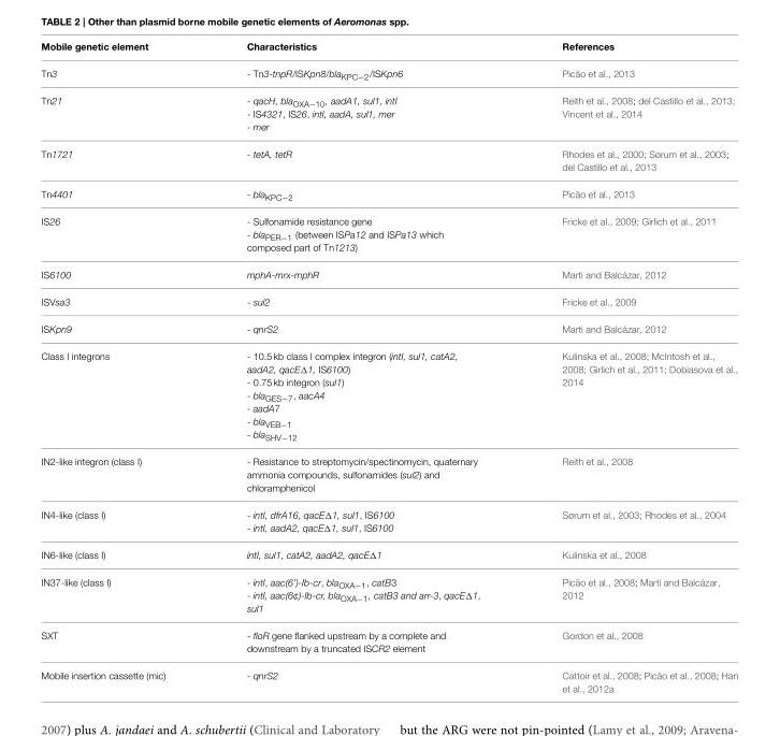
<table><thead><tr><td>Mobile genetic element</td><td>Characteristics</td><td>References</td></tr></thead><tbody><tr><td>Tn3</td><td>- Tn3-tnpR/ISKpn8/bla<sub>KPC−2</sub>/ISKpn6</td><td>Picão et al., 2013</td></tr><tr><td>Tn21</td><td>- qacH, bla<sub>OXA−10</sub>, aadA1, sul1, intI - IS4321, IS26, intI, aadA, sul1, mer - mer</td><td>Reith et al., 2008; del Castillo et al., 2013; Vincent et al., 2014</td></tr><tr><td>Tn1721</td><td>- tetA, tetR</td><td>Rhodes et al., 2000; Sørum et al., 2003; del Castillo et al., 2013</td></tr><tr><td>Tn4401</td><td>- bla<sub>KPC−2</sub></td><td>Picão et al., 2013</td></tr><tr><td>IS26</td><td>- Sulfonamide resistance gene - bla<sub>PER−1</sub> (between ISPa12 and ISPa13 which composed part of Tn1213)</td><td>Fricke et al., 2009; Girlich et al., 2011</td></tr><tr><td>IS6100</td><td>mphA-mrx-mphR</td><td>Marti and Balcázar, 2012</td></tr><tr><td>ISVsa3</td><td>- sul2</td><td>Fricke et al., 2009</td></tr><tr><td>ISKpn9</td><td>- qnrS2</td><td>Marti and Balcázar, 2012</td></tr><tr><td>Class I integrons</td><td>- 10.5 kb class I complex integron (intI, sul1, catA2, aadA2, qacEΔ1, IS6100) - 0.75 kb integron (sul1) - bla<sub>GES−7</sub>, aacA4 - aadA7 - bla<sub>VEB−1</sub> - bla<sub>SHV−12</sub></td><td>Kulinska et al., 2008; McIntosh et al., 2008; Girlich et al., 2011; Dobiasova et al., 2014</td></tr><tr><td>IN2-like integron (class I)</td><td>- Resistance to streptomycin/spectinomycin, quaternary ammonia compounds, sulfonamides (sul2) and chloramphenicol</td><td>Reith et al., 2008</td></tr><tr><td>IN4-like (class I)</td><td>- intI, dfrA16, qacEΔ1, sul1, IS6100 - intI, aadA2, qacEΔ1, sul1, IS6100</td><td>Sørum et al., 2003; Rhodes et al., 2004</td></tr><tr><td>IN6-like (class I)</td><td>intI, sul1, catA2, aadA2, qacEΔ1</td><td>Kulinska et al., 2008</td></tr><tr><td>IN37-like (class I)</td><td>- intI, aac(6’)-Ib-cr, bla<sub>OXA−1</sub>, catB3 - intI, aac(6¢)-Ib-cr, bla<sub>OXA−1</sub>, catB3 and arr-3, qacEΔ1, sul1</td><td>Picão et al., 2008; Marti and Balcázar, 2012</td></tr><tr><td>SXT</td><td>- floR gene flanked upstream by a complete and downstream by a truncated ISCR2 element</td><td>Gordon et al., 2008</td></tr><tr><td>Mobile insertion cassette (mic)</td><td>- qnrS2</td><td>Cattoir et al., 2008; Picão et al., 2008; Han et al., 2012a</td></tr></tbody></table>